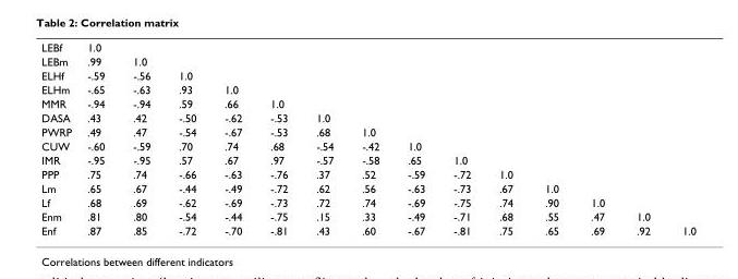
<table><tbody><tr><td>LEBf</td><td>1.0</td><td></td><td></td><td></td><td></td><td></td><td></td><td></td><td></td><td></td><td></td><td></td><td></td><td></td></tr><tr><td>LEBm</td><td>.99</td><td>1.0</td><td></td><td></td><td></td><td></td><td></td><td></td><td></td><td></td><td></td><td></td><td></td><td></td></tr><tr><td>ELHf</td><td>-.59</td><td>-.56</td><td>1.0</td><td></td><td></td><td></td><td></td><td></td><td></td><td></td><td></td><td></td><td></td><td></td></tr><tr><td>ELHm</td><td>-.65</td><td>-.63</td><td>.93</td><td>1.0</td><td></td><td></td><td></td><td></td><td></td><td></td><td></td><td></td><td></td><td></td></tr><tr><td>MMR</td><td>-.94</td><td>-.94</td><td>.59</td><td>.66</td><td>1.0</td><td></td><td></td><td></td><td></td><td></td><td></td><td></td><td></td><td></td></tr><tr><td>DASA</td><td>.43</td><td>.42</td><td>-.50</td><td>-.62</td><td>-.53</td><td>1.0</td><td></td><td></td><td></td><td></td><td></td><td></td><td></td><td></td></tr><tr><td>PWRP</td><td>.49</td><td>.47</td><td>-.54</td><td>-.67</td><td>-.53</td><td>.68</td><td>1.0</td><td></td><td></td><td></td><td></td><td></td><td></td><td></td></tr><tr><td>CUW</td><td>-.60</td><td>-.59</td><td>.70</td><td>.74</td><td>.68</td><td>-.54</td><td>-.42</td><td>1.0</td><td></td><td></td><td></td><td></td><td></td><td></td></tr><tr><td>IMR</td><td>-.95</td><td>-.95</td><td>.57</td><td>.67</td><td>.97</td><td>-.57</td><td>-.58</td><td>.65</td><td>1.0</td><td></td><td></td><td></td><td></td><td></td></tr><tr><td>PPP</td><td>.75</td><td>.74</td><td>-.66</td><td>-.63</td><td>-.76</td><td>.37</td><td>.52</td><td>-.59</td><td>-.72</td><td>1.0</td><td></td><td></td><td></td><td></td></tr><tr><td>Lm</td><td>.65</td><td>.67</td><td>-.44</td><td>-.49</td><td>-.72</td><td>.62</td><td>.56</td><td>-.63</td><td>-.73</td><td>.67</td><td>1.0</td><td></td><td></td><td></td></tr><tr><td>Lf</td><td>.68</td><td>.69</td><td>-.62</td><td>-.69</td><td>-.73</td><td>.72</td><td>.74</td><td>-.69</td><td>-.75</td><td>.74</td><td>.90</td><td>1.0</td><td></td><td></td></tr><tr><td>Enm</td><td>.81</td><td>.80</td><td>-.54</td><td>-.44</td><td>-.75</td><td>.15</td><td>.33</td><td>-.49</td><td>-.71</td><td>.68</td><td>.55</td><td>.47</td><td>1.0</td><td></td></tr><tr><td>Enf</td><td>.87</td><td>.85</td><td>-.72</td><td>-.70</td><td>-.81</td><td>.43</td><td>.60</td><td>-.67</td><td>-.81</td><td>.75</td><td>.65</td><td>.69</td><td>.92</td><td>1.0</td></tr></tbody></table>